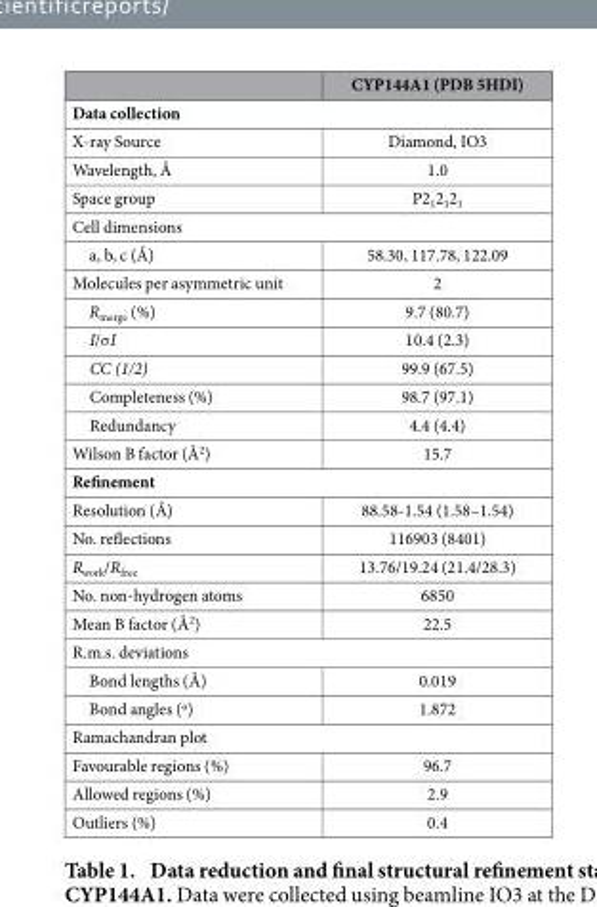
<table><thead><tr><td></td><td>CYP144A1 (PDB 5HDI)</td></tr></thead><tbody><tr><td colspan="2">Data collection</td></tr><tr><td>X-ray Source</td><td>Diamond, IO3</td></tr><tr><td>Wavelength, Å</td><td>1.0</td></tr><tr><td>Space group</td><td>P2<sub>1</sub>2<sub>1</sub>2<sub>1</sub></td></tr><tr><td colspan="2">Cell dimensions</td></tr><tr><td>a, b, c (Å)</td><td>58.30, 117.78, 122.09</td></tr><tr><td>Molecules per asymmetric unit</td><td>2</td></tr><tr><td>R<sub>merge</sub> (%)</td><td>9.7 (80.7)</td></tr><tr><td>I/σ I</td><td>10.4 (2.3)</td></tr><tr><td>CC (1/2)</td><td>99.9 (67.5)</td></tr><tr><td>Completeness (%)</td><td>98.7 (97.1)</td></tr><tr><td>Redundancy</td><td>4.4 (4.4)</td></tr><tr><td>Wilson B factor (Å<sup>2</sup>)</td><td>15.7</td></tr><tr><td colspan="2">Refinement</td></tr><tr><td>Resolution (Å)</td><td>88.58-1.54 (1.58–1.54)</td></tr><tr><td>No. reflections</td><td>116903 (8401)</td></tr><tr><td>R<sub>work</sub>/R<sub>free</sub></td><td>13.76/19.24 (21.4/28.3)</td></tr><tr><td>No. non-hydrogen atoms</td><td>6850</td></tr><tr><td>Mean B factor (Å<sup>2</sup>)</td><td>22.5</td></tr><tr><td colspan="2">R.m.s. deviations</td></tr><tr><td>Bond lengths (Å)</td><td>0.019</td></tr><tr><td>Bond angles (º)</td><td>1.872</td></tr><tr><td colspan="2">Ramachandran plot</td></tr><tr><td>Favourable regions (%)</td><td>96.7</td></tr><tr><td>Allowed regions (%)</td><td>2.9</td></tr><tr><td>Outliers (%)</td><td>0.4</td></tr></tbody></table>